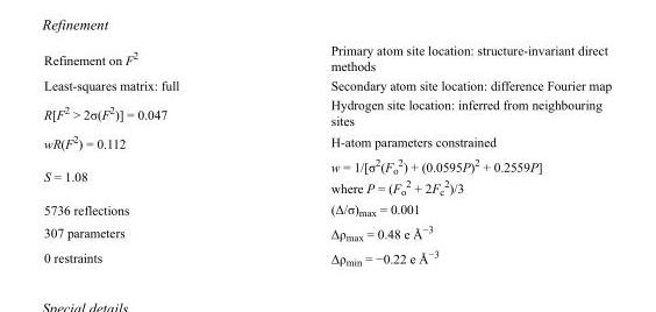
<table><tbody><tr><td>Refinement on F<sup>2</sup></td><td>Primary atom site location: structure-invariant direct methods</td></tr><tr><td>Least-squares matrix: full</td><td>Secondary atom site location: difference Fourier map</td></tr><tr><td>R[F<sup>2</sup> &gt; 2σ(F<sup>2</sup>)] = 0.047</td><td>Hydrogen site location: inferred from neighbouring sites</td></tr><tr><td>wR(F<sup>2</sup>) = 0.112</td><td>H-atom parameters constrained</td></tr><tr><td>S = 1.08</td><td>w = 1/[σ<sup>2</sup>(F<sub>o</sub> <sup>2</sup>) + (0.0595P)<sup>2</sup> + 0.2559P] where P = (F<sub>o</sub> <sup>2</sup> + 2F<sub>c</sub> <sup>2</sup>)/3</td></tr><tr><td>5736 reflections</td><td>(Δ/σ)<sub>max</sub> = 0.001</td></tr><tr><td>307 parameters</td><td>Δρ<sub>max</sub> = 0.48 e Å<sup>−3</sup></td></tr><tr><td>0 restraints</td><td>Δρ<sub>min</sub> = −0.22 e Å<sup>−3</sup></td></tr></tbody></table>